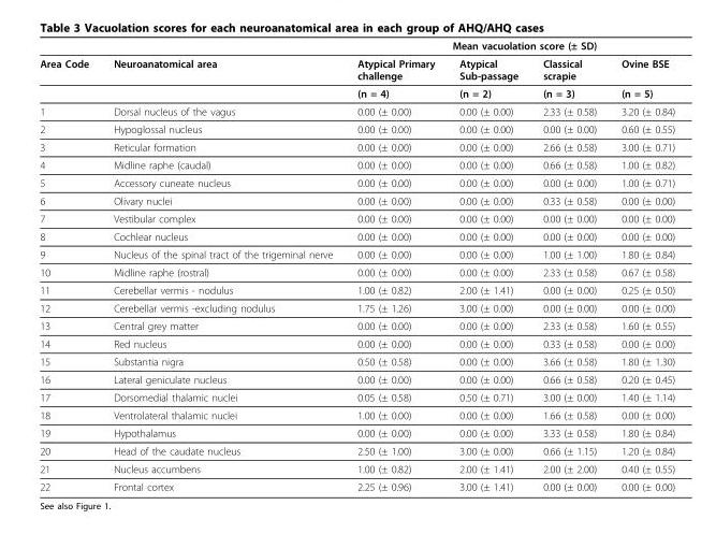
<table><thead><tr><td rowspan="2">Area Code</td><td rowspan="2">Neuroanatomical area</td><td colspan="4">Mean vacuolation score (± SD)</td></tr><tr><td>Atypical Primary challenge</td><td>Atypical Sub-passage</td><td>Classical scrapie</td><td>Ovine BSE</td></tr></thead><tbody><tr><td></td><td></td><td>(n = 4)</td><td>(n = 2)</td><td>(n = 3)</td><td>(n = 5)</td></tr><tr><td>1</td><td>Dorsal nucleus of the vagus</td><td>0.00 (± 0.00)</td><td>0.00 (± 0.00)</td><td>2.33 (± 0.58)</td><td>3.20 (± 0.84)</td></tr><tr><td>2</td><td>Hypoglossal nucleus</td><td>0.00 (± 0.00)</td><td>0.00 (± 0.00)</td><td>0.00 (± 0.00)</td><td>0.60 (± 0.55)</td></tr><tr><td>3</td><td>Reticular formation</td><td>0.00 (± 0.00)</td><td>0.00 (± 0.00)</td><td>2.66 (± 0.58)</td><td>3.00 (± 0.71)</td></tr><tr><td>4</td><td>Midline raphe (caudal)</td><td>0.00 (± 0.00)</td><td>0.00 (± 0.00)</td><td>0.66 (± 0.58)</td><td>1.00 (± 0.82)</td></tr><tr><td>5</td><td>Accessory cuneate nucleus</td><td>0.00 (± 0.00)</td><td>0.00 (± 0.00)</td><td>0.00 (± 0.00)</td><td>1.00 (± 0.71)</td></tr><tr><td>6</td><td>Olivary nuclei</td><td>0.00 (± 0.00)</td><td>0.00 (± 0.00)</td><td>0.33 (± 0.58)</td><td>0.00 (± 0.00)</td></tr><tr><td>7</td><td>Vestibular complex</td><td>0.00 (± 0.00)</td><td>0.00 (± 0.00)</td><td>0.00 (± 0.00)</td><td>0.00 (± 0.00)</td></tr><tr><td>8</td><td>Cochlear nucleus</td><td>0.00 (± 0.00)</td><td>0.00 (± 0.00)</td><td>0.00 (± 0.00)</td><td>0.00 (± 0.00)</td></tr><tr><td>9</td><td>Nucleus of the spinal tract of the trigeminal nerve</td><td>0.00 (± 0.00)</td><td>0.00 (± 0.00)</td><td>1.00 (± 1.00)</td><td>1.80 (± 0.84)</td></tr><tr><td>10</td><td>Midline raphe (rostral)</td><td>0.00 (± 0.00)</td><td>0.00 (± 0.00)</td><td>2.33 (± 0.58)</td><td>0.67 (± 0.58)</td></tr><tr><td>11</td><td>Cerebellar vermis - nodulus</td><td>1.00 (± 0.82)</td><td>2.00 (± 1.41)</td><td>0.00 (± 0.00)</td><td>0.25 (± 0.50)</td></tr><tr><td>12</td><td>Cerebellar vermis -excluding nodulus</td><td>1.75 (± 1.26)</td><td>3.00 (± 0.00)</td><td>0.00 (± 0.00)</td><td>0.00 (± 0.00)</td></tr><tr><td>13</td><td>Central grey matter</td><td>0.00 (± 0.00)</td><td>0.00 (± 0.00)</td><td>2.33 (± 0.58)</td><td>1.60 (± 0.55)</td></tr><tr><td>14</td><td>Red nucleus</td><td>0.00 (± 0.00)</td><td>0.00 (± 0.00)</td><td>0.33 (± 0.58)</td><td>0.00 (± 0.00)</td></tr><tr><td>15</td><td>Substantia nigra</td><td>0.50 (± 0.58)</td><td>0.00 (± 0.00)</td><td>3.66 (± 0.58)</td><td>1.80 (± 1.30)</td></tr><tr><td>16</td><td>Lateral geniculate nucleus</td><td>0.00 (± 0.00)</td><td>0.00 (± 0.00)</td><td>0.66 (± 0.58)</td><td>0.20 (± 0.45)</td></tr><tr><td>17</td><td>Dorsomedial thalamic nuclei</td><td>0.05 (± 0.58)</td><td>0.50 (± 0.71)</td><td>3.00 (± 0.00)</td><td>1.40 (± 1.14)</td></tr><tr><td>18</td><td>Ventrolateral thalamic nuclei</td><td>1.00 (± 0.00)</td><td>0.00 (± 0.00)</td><td>1.66 (± 0.58)</td><td>0.00 (± 0.00)</td></tr><tr><td>19</td><td>Hypothalamus</td><td>0.00 (± 0.00)</td><td>0.00 (± 0.00)</td><td>3.33 (± 0.58)</td><td>1.80 (± 0.84)</td></tr><tr><td>20</td><td>Head of the caudate nucleus</td><td>2.50 (± 1.00)</td><td>3.00 (± 0.00)</td><td>0.66 (± 1.15)</td><td>1.20 (± 0.84)</td></tr><tr><td>21</td><td>Nucleus accumbens</td><td>1.00 (± 0.82)</td><td>2.00 (± 1.41)</td><td>2.00 (± 2.00)</td><td>0.40 (± 0.55)</td></tr><tr><td>22</td><td>Frontal cortex</td><td>2.25 (± 0.96)</td><td>3.00 (± 1.41)</td><td>0.00 (± 0.00)</td><td>0.00 (± 0.00)</td></tr></tbody></table>